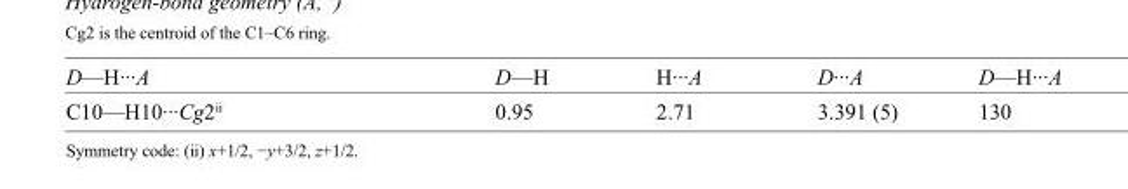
<table><tbody><tr><td>D—H···A</td><td>D—H</td><td>H···A</td><td>D···A</td><td>D—H···A</td></tr><tr><td>C10—H10···Cg2<sup>ii</sup></td><td>0.95</td><td>2.71</td><td>3.391 (5)</td><td>130</td></tr></tbody></table>